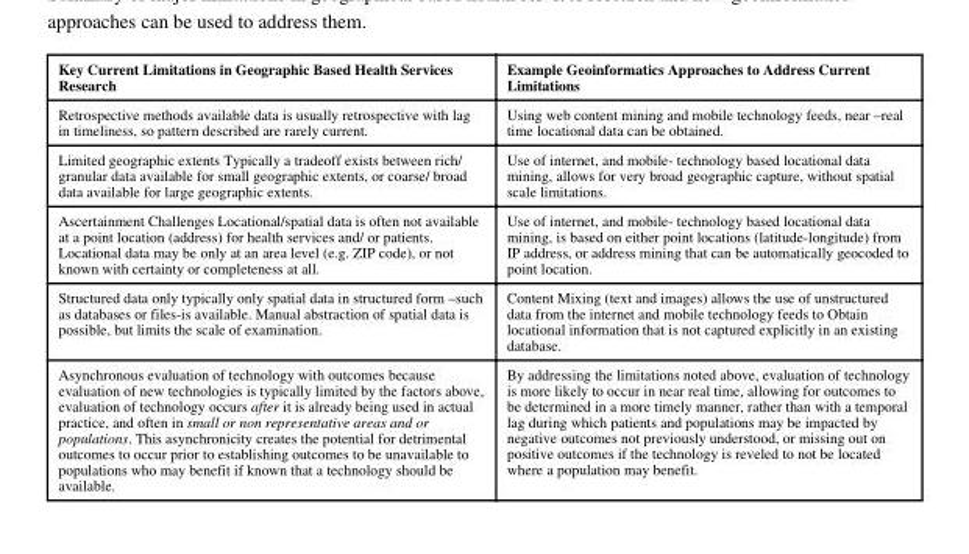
<table><thead><tr><td>Key Current Limitations in Geographic Based Health Services Research</td><td>Example Geoinformatics Approaches to Address Current Limitations</td></tr></thead><tbody><tr><td>Retrospective methods available data is usually retrospective with lag in timeliness, so pattern described are rarely current.</td><td>Using web content mining and mobile technology feeds, near –real time locational data can be obtained.</td></tr><tr><td>Limited geographic extents Typically a tradeoff exists between rich/ granular data available for small geographic extents, or coarse/ broad data available for large geographic extents.</td><td>Use of internet, and mobile- technology based locational data mining, allows for very broad geographic capture, without spatial scale limitations.</td></tr><tr><td>Ascertainment Challenges Locational/spatial data is often not available at a point location (address) for health services and/ or patients. Locational data may be only at an area level (e.g. ZIP code), or not known with certainty or completeness at all.</td><td>Use of internet, and mobile- technology based locational data mining, is based on either point locations (latitude-longitude) from IP address, or address mining that can be automatically geocoded to point location.</td></tr><tr><td>Structured data only typically only spatial data in structured form –such as databases or files-is available. Manual abstraction of spatial data is possible, but limits the scale of examination.</td><td>Content Mixing (text and images) allows the use of unstructured data from the internet and mobile technology feeds to Obtain locational information that is not captured explicitly in an existing database.</td></tr><tr><td>Asynchronous evaluation of technology with outcomes because evaluation of new technologies is typically limited by the factors above, evaluation of technology occurs after it is already being used in actual practice, and often in small or non representative areas and or populations. This asynchronicity creates the potential for detrimental outcomes to occur prior to establishing outcomes to be unavailable to populations who may benefit if known that a technology should be available.</td><td>By addressing the limitations noted above, evaluation of technology is more likely to occur in near real time, allowing for outcomes to be determined in a more timely manner, rather than with a temporal lag during which patients and populations may be impacted by negative outcomes not previously understood, or missing out on positive outcomes if the technology is reveled to not be located where a population may benefit.</td></tr></tbody></table>